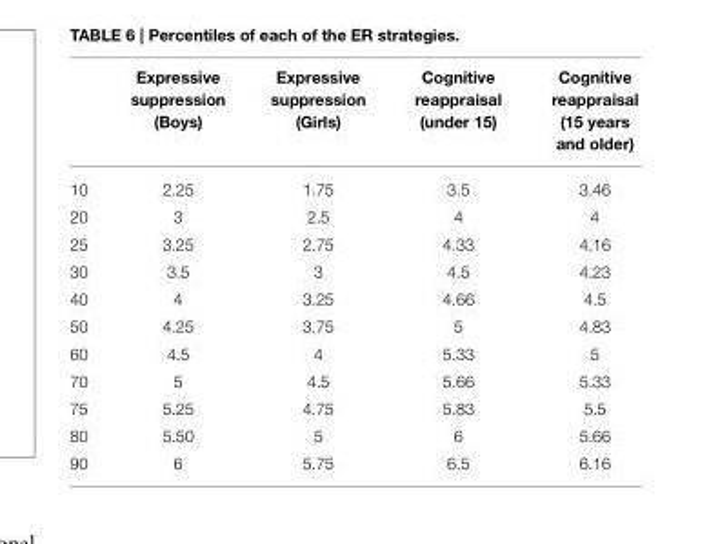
<table><thead><tr><td></td><td>Expressive suppression (Boys)</td><td>Expressive suppression (Girls)</td><td>Cognitive reappraisal (under 15)</td><td>Cognitive reappraisal (15 years and older)</td></tr></thead><tbody><tr><td>10</td><td>2.25</td><td>1.75</td><td>3.5</td><td>3.46</td></tr><tr><td>20</td><td>3</td><td>2.5</td><td>4</td><td>4</td></tr><tr><td>25</td><td>3.25</td><td>2.75</td><td>4.33</td><td>4.16</td></tr><tr><td>30</td><td>3.5</td><td>3</td><td>4.5</td><td>4.23</td></tr><tr><td>40</td><td>4</td><td>3.25</td><td>4.66</td><td>4.5</td></tr><tr><td>50</td><td>4.25</td><td>3.75</td><td>5</td><td>4.83</td></tr><tr><td>60</td><td>4.5</td><td>4</td><td>5.33</td><td>5</td></tr><tr><td>70</td><td>5</td><td>4.5</td><td>5.66</td><td>5.33</td></tr><tr><td>75</td><td>5.25</td><td>4.75</td><td>5.83</td><td>5.5</td></tr><tr><td>80</td><td>5.50</td><td>5</td><td>6</td><td>5.66</td></tr><tr><td>90</td><td>6</td><td>5.75</td><td>6.5</td><td>6.16</td></tr></tbody></table>